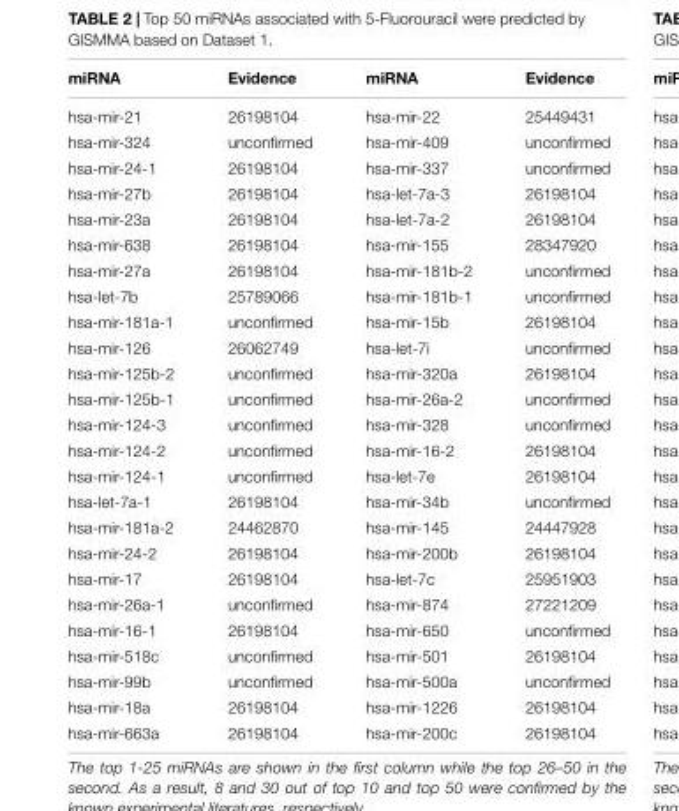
<table><thead><tr><td>miRNA</td><td>Evidence</td><td>miRNA</td><td>Evidence</td></tr></thead><tbody><tr><td>hsa-mir-21</td><td>26198104</td><td>hsa-mir-22</td><td>25449431</td></tr><tr><td>hsa-mir-324</td><td>unconfirmed</td><td>hsa-mir-409</td><td>unconfirmed</td></tr><tr><td>hsa-mir-24-1</td><td>26198104</td><td>hsa-mir-337</td><td>unconfirmed</td></tr><tr><td>hsa-mir-27b</td><td>26198104</td><td>hsa-let-7a-3</td><td>26198104</td></tr><tr><td>hsa-mir-23a</td><td>26198104</td><td>hsa-let-7a-2</td><td>26198104</td></tr><tr><td>hsa-mir-638</td><td>26198104</td><td>hsa-mir-155</td><td>28347920</td></tr><tr><td>hsa-mir-27a</td><td>26198104</td><td>hsa-mir-181b-2</td><td>unconfirmed</td></tr><tr><td>hsa-let-7b</td><td>25789066</td><td>hsa-mir-181b-1</td><td>unconfirmed</td></tr><tr><td>hsa-mir-181a-1</td><td>unconfirmed</td><td>hsa-mir-15b</td><td>26198104</td></tr><tr><td>hsa-mir-126</td><td>26062749</td><td>hsa-let-7i</td><td>unconfirmed</td></tr><tr><td>hsa-mir-125b-2</td><td>unconfirmed</td><td>hsa-mir-320a</td><td>26198104</td></tr><tr><td>hsa-mir-125b-1</td><td>unconfirmed</td><td>hsa-mir-26a-2</td><td>unconfirmed</td></tr><tr><td>hsa-mir-124-3</td><td>unconfirmed</td><td>hsa-mir-328</td><td>unconfirmed</td></tr><tr><td>hsa-mir-124-2</td><td>unconfirmed</td><td>hsa-mir-16-2</td><td>26198104</td></tr><tr><td>hsa-mir-124-1</td><td>unconfirmed</td><td>hsa-let-7e</td><td>26198104</td></tr><tr><td>hsa-let-7a-1</td><td>26198104</td><td>hsa-mir-34b</td><td>unconfirmed</td></tr><tr><td>hsa-mir-181a-2</td><td>24462870</td><td>hsa-mir-145</td><td>24447928</td></tr><tr><td>hsa-mir-24-2</td><td>26198104</td><td>hsa-mir-200b</td><td>26198104</td></tr><tr><td>hsa-mir-17</td><td>26198104</td><td>hsa-let-7c</td><td>25951903</td></tr><tr><td>hsa-mir-26a-1</td><td>unconfirmed</td><td>hsa-mir-874</td><td>27221209</td></tr><tr><td>hsa-mir-16-1</td><td>26198104</td><td>hsa-mir-650</td><td>unconfirmed</td></tr><tr><td>hsa-mir-518c</td><td>unconfirmed</td><td>hsa-mir-501</td><td>26198104</td></tr><tr><td>hsa-mir-99b</td><td>unconfirmed</td><td>hsa-mir-500a</td><td>unconfirmed</td></tr><tr><td>hsa-mir-18a</td><td>26198104</td><td>hsa-mir-1226</td><td>26198104</td></tr><tr><td>hsa-mir-663a</td><td>26198104</td><td>hsa-mir-200c</td><td>26198104</td></tr></tbody></table>